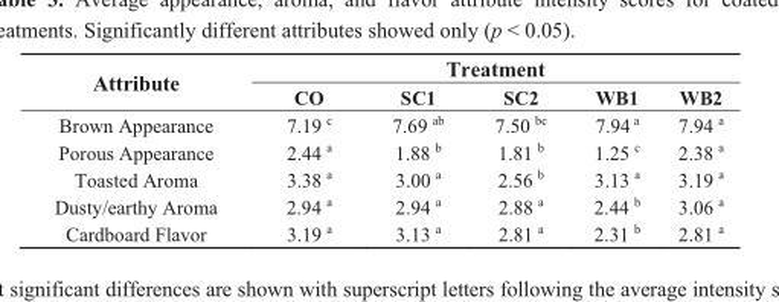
<table><thead><tr><td rowspan="2">Attribute</td><td colspan="5">Treatment</td></tr><tr><td>CO</td><td>SC1</td><td>SC2</td><td>WB1</td><td>WB2</td></tr></thead><tbody><tr><td>Brown Appearance</td><td>7.19 <sup>c</sup></td><td>7.69 <sup>ab</sup></td><td>7.50 <sup>bc</sup></td><td>7.94 <sup>a</sup></td><td>7.94 <sup>a</sup></td></tr><tr><td>Porous Appearance</td><td>2.44 <sup>a</sup></td><td>1.88 <sup>b</sup></td><td>1.81 <sup>b</sup></td><td>1.25 <sup>c</sup></td><td>2.38 <sup>a</sup></td></tr><tr><td>Toasted Aroma</td><td>3.38 <sup>a</sup></td><td>3.00 <sup>a</sup></td><td>2.56 <sup>b</sup></td><td>3.13 <sup>a</sup></td><td>3.19 <sup>a</sup></td></tr><tr><td>Dusty/earthy Aroma</td><td>2.94 <sup>a</sup></td><td>2.94 <sup>a</sup></td><td>2.88 <sup>a</sup></td><td>2.44 <sup>b</sup></td><td>3.06 <sup>a</sup></td></tr><tr><td>Cardboard Flavor</td><td>3.19 <sup>a</sup></td><td>3.13 <sup>a</sup></td><td>2.81 <sup>a</sup></td><td>2.31 <sup>b</sup></td><td>2.81 <sup>a</sup></td></tr></tbody></table>